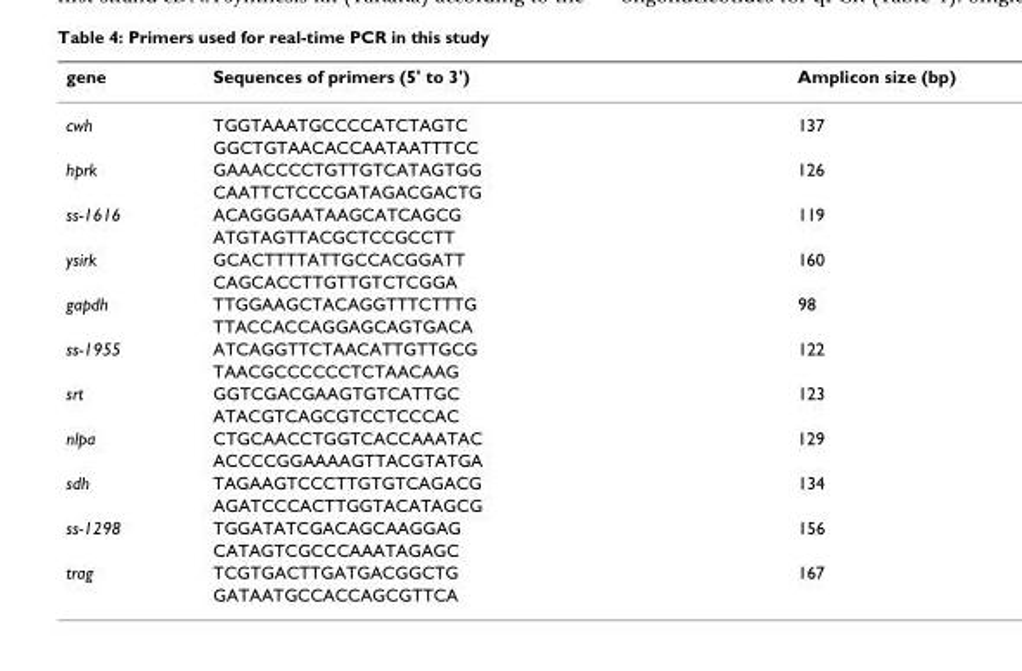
<table><thead><tr><td>gene</td><td>Sequences of primers (5&#x27; to 3&#x27;)</td><td>Amplicon size (bp)</td></tr></thead><tbody><tr><td rowspan="2">cwh</td><td>TGGTAAATGCCCCATCTAGTC</td><td>137</td></tr><tr><td>GGCTGTAACACCAATAATTTCC</td><td></td></tr><tr><td rowspan="2">hprk</td><td>GAAACCCCTGTTGTCATAGTGG</td><td>126</td></tr><tr><td>CAATTCTCCCGATAGACGACTG</td><td></td></tr><tr><td rowspan="2">ss-1616</td><td>ACAGGGAATAAGCATCAGCG</td><td>119</td></tr><tr><td>ATGTAGTTACGCTCCGCCTT</td><td></td></tr><tr><td rowspan="2">ysirk</td><td>GCACTTTTATTGCCACGGATT</td><td>160</td></tr><tr><td>CAGCACCTTGTTGTCTCGGA</td><td></td></tr><tr><td rowspan="2">gapdh</td><td>TTGGAAGCTACAGGTTTCTTTG</td><td>98</td></tr><tr><td>TTACCACCAGGAGCAGTGACA</td><td></td></tr><tr><td rowspan="2">ss-1955</td><td>ATCAGGTTCTAACATTGTTGCG</td><td>122</td></tr><tr><td>TAACGCCCCCCTCTAACAAG</td><td></td></tr><tr><td rowspan="2">srt</td><td>GGTCGACGAAGTGTCATTGC</td><td>123</td></tr><tr><td>ATACGTCAGCGTCCTCCCAC</td><td></td></tr><tr><td rowspan="2">nlpa</td><td>CTGCAACCTGGTCACCAAATAC</td><td>129</td></tr><tr><td>ACCCCGGAAAAGTTACGTATGA</td><td></td></tr><tr><td rowspan="2">sdh</td><td>TAGAAGTCCCTTGTGTCAGACG</td><td>134</td></tr><tr><td>AGATCCCACTTGGTACATAGCG</td><td></td></tr><tr><td rowspan="2">ss-1298</td><td>TGGATATCGACAGCAAGGAG</td><td>156</td></tr><tr><td>CATAGTCGCCCAAATAGAGC</td><td></td></tr><tr><td rowspan="2">trag</td><td>TCGTGACTTGATGACGGCTG</td><td>167</td></tr><tr><td>GATAATGCCACCAGCGTTCA</td><td></td></tr></tbody></table>